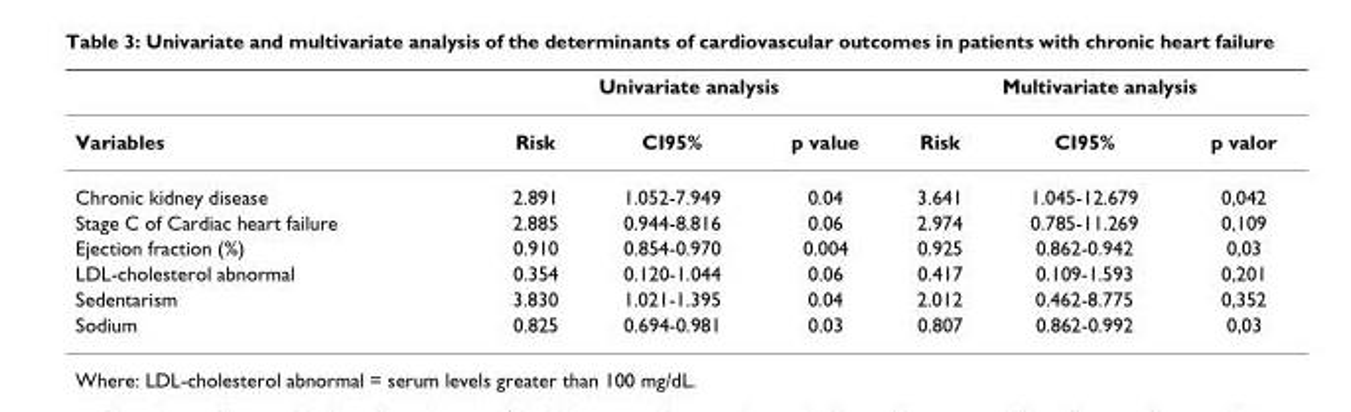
<table><thead><tr><td rowspan="2">Variables</td><td colspan="3">Univariate analysis</td><td colspan="3">Multivariate analysis</td></tr><tr><td>Risk</td><td>CI95%</td><td>p value</td><td>Risk</td><td>CI95%</td><td>p valor</td></tr></thead><tbody><tr><td>Chronic kidney disease</td><td>2.891</td><td>1.052-7.949</td><td>0.04</td><td>3.641</td><td>1.045-12.679</td><td>0,042</td></tr><tr><td>Stage C of Cardiac heart failure</td><td>2.885</td><td>0.944-8.816</td><td>0.06</td><td>2.974</td><td>0.785-11.269</td><td>0,109</td></tr><tr><td>Ejection fraction (%)</td><td>0.910</td><td>0.854-0.970</td><td>0.004</td><td>0.925</td><td>0.862-0.942</td><td>0,03</td></tr><tr><td>LDL-cholesterol abnormal</td><td>0.354</td><td>0.120-1.044</td><td>0.06</td><td>0.417</td><td>0.109-1.593</td><td>0,201</td></tr><tr><td>Sedentarism</td><td>3.830</td><td>1.021-1.395</td><td>0.04</td><td>2.012</td><td>0.462-8.775</td><td>0,352</td></tr><tr><td>Sodium</td><td>0.825</td><td>0.694-0.981</td><td>0.03</td><td>0.807</td><td>0.862-0.992</td><td>0,03</td></tr></tbody></table>